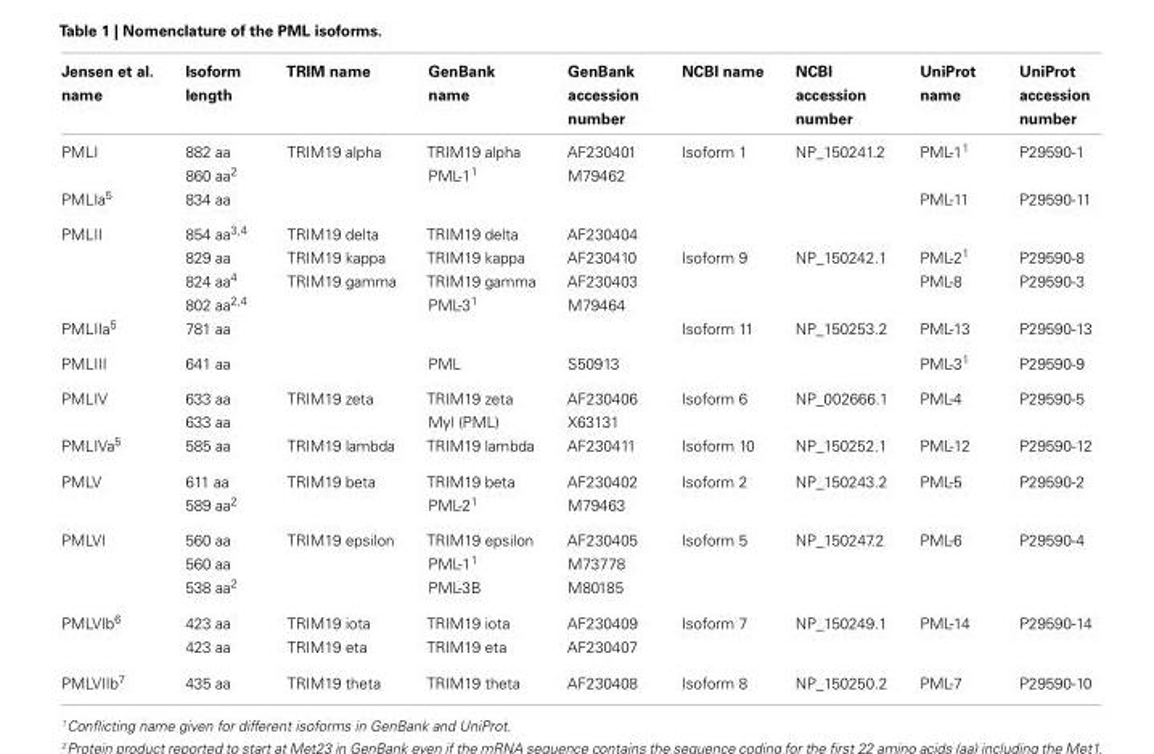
<table><thead><tr><td>Jensen et al. name</td><td>Isoform length</td><td>TRIM name</td><td>GenBank name</td><td>GenBank accession number</td><td>NCBI name</td><td>NCBI accession number</td><td>UniProt name</td><td>UniProt accession number</td></tr></thead><tbody><tr><td rowspan="2">PMLI</td><td>882 aa</td><td>TRIM19 alpha</td><td>TRIM19 alpha</td><td>AF230401</td><td>Isoform 1</td><td>NP_150241.2</td><td>PML-1<sup>1</sup></td><td>P29590-1</td></tr><tr><td>860 aa<sup>2</sup></td><td></td><td>PML-1<sup>1</sup></td><td>M79462</td><td></td><td></td><td></td><td></td></tr><tr><td>PMLIa<sup>5</sup></td><td>834 aa</td><td></td><td></td><td></td><td></td><td></td><td>PML-11</td><td>P29590-11</td></tr><tr><td rowspan="4">PMLII</td><td>854 aa<sup>3,4</sup></td><td>TRIM19 delta</td><td>TRIM19 delta</td><td>AF230404</td><td></td><td></td><td></td><td></td></tr><tr><td>829 aa</td><td>TRIM19 kappa</td><td>TRIM19 kappa</td><td>AF230410</td><td>Isoform 9</td><td>NP_150242.1</td><td>PML-2<sup>1</sup></td><td>P29590-8</td></tr><tr><td>824 aa<sup>4</sup></td><td>TRIM19 gamma</td><td>TRIM19 gamma</td><td>AF230403</td><td></td><td></td><td>PML-8</td><td>P29590-3</td></tr><tr><td>802 aa<sup>2,4</sup></td><td></td><td>PML-3<sup>1</sup></td><td>M79464</td><td></td><td></td><td></td><td></td></tr><tr><td>PMLIIa<sup>5</sup></td><td>781 aa</td><td></td><td></td><td></td><td>Isoform 11</td><td>NP_150253.2</td><td>PML-13</td><td>P29590-13</td></tr><tr><td>PMLIII</td><td>641 aa</td><td></td><td>PML</td><td>S50913</td><td></td><td></td><td>PML-3<sup>1</sup></td><td>P29590-9</td></tr><tr><td rowspan="2">PMLIV</td><td>633 aa</td><td>TRIM19 zeta</td><td>TRIM19 zeta</td><td>AF230406</td><td>Isoform 6</td><td>NP_002666.1</td><td>PML-4</td><td>P29590-5</td></tr><tr><td>633 aa</td><td></td><td>Myl (PML)</td><td>X63131</td><td></td><td></td><td></td><td></td></tr><tr><td>PMLIVa<sup>5</sup></td><td>585 aa</td><td>TRIM19 lambda</td><td>TRIM19 lambda</td><td>AF230411</td><td>Isoform 10</td><td>NP_150252.1</td><td>PML-12</td><td>P29590-12</td></tr><tr><td rowspan="2">PMLV</td><td>611 aa</td><td>TRIM19 beta</td><td>TRIM19 beta</td><td>AF230402</td><td>Isoform 2</td><td>NP_150243.2</td><td>PML-5</td><td>P29590-2</td></tr><tr><td>589 aa<sup>2</sup></td><td></td><td>PML-2<sup>1</sup></td><td>M79463</td><td></td><td></td><td></td><td></td></tr><tr><td rowspan="3">PMLVI</td><td>560 aa</td><td>TRIM19 epsilon</td><td>TRIM19 epsilon</td><td>AF230405</td><td>Isoform 5</td><td>NP_150247.2</td><td>PML-6</td><td>P29590-4</td></tr><tr><td>560 aa</td><td></td><td>PML-1<sup>1</sup></td><td>M73778</td><td></td><td></td><td></td><td></td></tr><tr><td>538 aa<sup>2</sup></td><td></td><td>PML-3B</td><td>M80185</td><td></td><td></td><td></td><td></td></tr><tr><td rowspan="2">PMLVIb<sup>6</sup></td><td>423 aa</td><td>TRIM19 iota</td><td>TRIM19 iota</td><td>AF230409</td><td>Isoform 7</td><td>NP_150249.1</td><td>PML-14</td><td>P29590-14</td></tr><tr><td>423 aa</td><td>TRIM19 eta</td><td>TRIM19 eta</td><td>AF230407</td><td></td><td></td><td></td><td></td></tr><tr><td>PMLVIIb<sup>7</sup></td><td>435 aa</td><td>TRIM19 theta</td><td>TRIM19 theta</td><td>AF230408</td><td>Isoform 8</td><td>NP_150250.2</td><td>PML-7</td><td>P29590-10</td></tr></tbody></table>